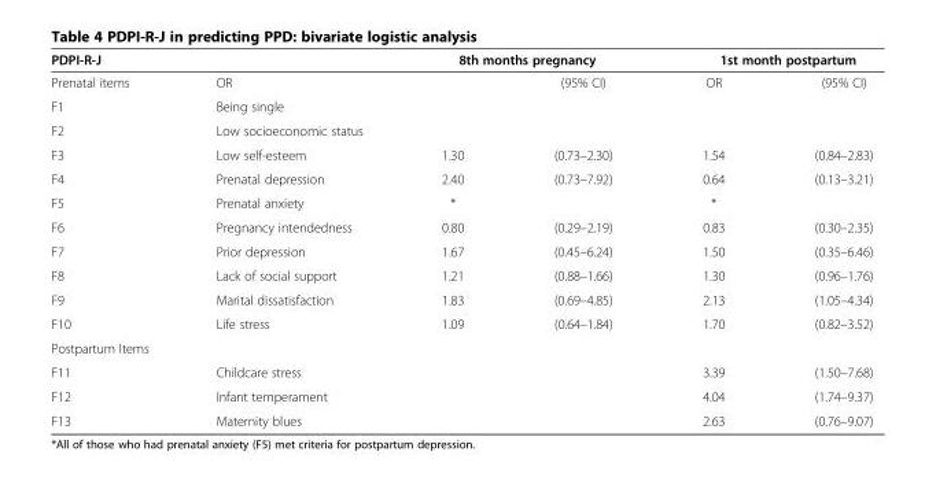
<table><thead><tr><td rowspan="2">PDPI-R-J Prenatal items</td><td rowspan="2">OR</td><td colspan="2">8th months pregnancy</td><td colspan="2">1st month postpartum</td></tr><tr><td></td><td>(95% CI)</td><td>OR</td><td>(95% CI)</td></tr></thead><tbody><tr><td>F1</td><td>Being single</td><td></td><td></td><td></td><td></td></tr><tr><td>F2</td><td>Low socioeconomic status</td><td></td><td></td><td></td><td></td></tr><tr><td>F3</td><td>Low self-esteem</td><td>1.30</td><td>(0.73–2.30)</td><td>1.54</td><td>(0.84–2.83)</td></tr><tr><td>F4</td><td>Prenatal depression</td><td>2.40</td><td>(0.73–7.92)</td><td>0.64</td><td>(0.13–3.21)</td></tr><tr><td>F5</td><td>Prenatal anxiety</td><td>*</td><td></td><td>*</td><td></td></tr><tr><td>F6</td><td>Pregnancy intendedness</td><td>0.80</td><td>(0.29–2.19)</td><td>0.83</td><td>(0.30–2.35)</td></tr><tr><td>F7</td><td>Prior depression</td><td>1.67</td><td>(0.45–6.24)</td><td>1.50</td><td>(0.35–6.46)</td></tr><tr><td>F8</td><td>Lack of social support</td><td>1.21</td><td>(0.88–1.66)</td><td>1.30</td><td>(0.96–1.76)</td></tr><tr><td>F9</td><td>Marital dissatisfaction</td><td>1.83</td><td>(0.69–4.85)</td><td>2.13</td><td>(1.05–4.34)</td></tr><tr><td>F10</td><td>Life stress</td><td>1.09</td><td>(0.64–1.84)</td><td>1.70</td><td>(0.82–3.52)</td></tr><tr><td colspan="6">Postpartum Items</td></tr><tr><td>F11</td><td>Childcare stress</td><td></td><td></td><td>3.39</td><td>(1.50–7.68)</td></tr><tr><td>F12</td><td>Infant temperament</td><td></td><td></td><td>4.04</td><td>(1.74–9.37)</td></tr><tr><td>F13</td><td>Maternity blues</td><td></td><td></td><td>2.63</td><td>(0.76–9.07)</td></tr></tbody></table>